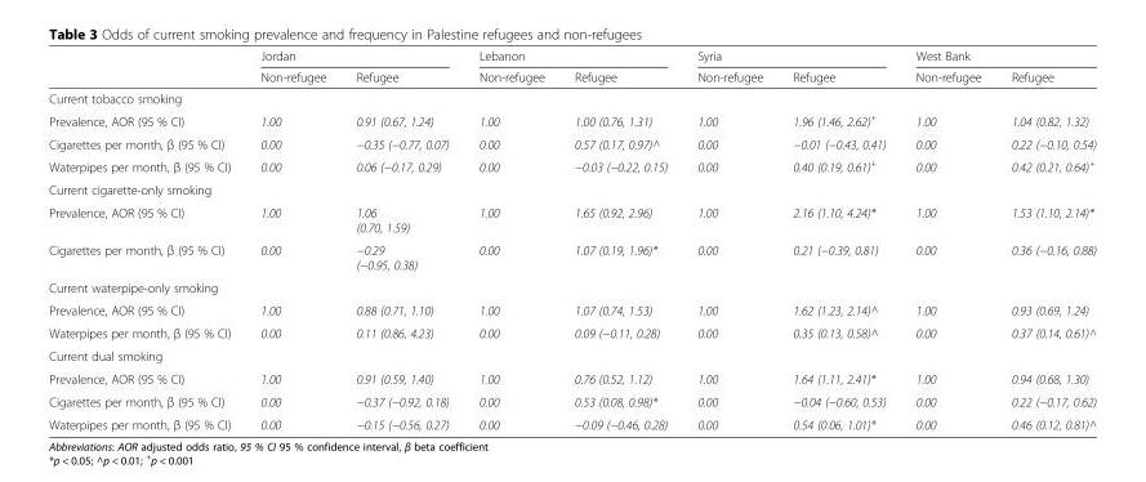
<table><thead><tr><td rowspan="2"></td><td colspan="2">Jordan</td><td colspan="2">Lebanon</td><td colspan="2">Syria</td><td colspan="2">West Bank</td></tr><tr><td>Non-refugee</td><td>Refugee</td><td>Non-refugee</td><td>Refugee</td><td>Non-refugee</td><td>Refugee</td><td>Non-refugee</td><td>Refugee</td></tr></thead><tbody><tr><td colspan="9">Current tobacco smoking</td></tr><tr><td>Prevalence, AOR (95 % CI)</td><td>1.00</td><td>0.91 (0.67, 1.24)</td><td>1.00</td><td>1.00 (0.76, 1.31)</td><td>1.00</td><td>1.96 (1.46, 2.62)<sup>+</sup></td><td>1.00</td><td>1.04 (0.82, 1.32)</td></tr><tr><td>Cigarettes per month, β (95 % CI)</td><td>0.00</td><td>−0.35 (−0.77, 0.07)</td><td>0.00</td><td>0.57 (0.17, 0.97)^</td><td>0.00</td><td>−0.01 (−0.43, 0.41)</td><td>0.00</td><td>0.22 (−0.10, 0.54)</td></tr><tr><td>Waterpipes per month, β (95 % CI)</td><td>0.00</td><td>0.06 (−0.17, 0.29)</td><td>0.00</td><td>−0.03 (−0.22, 0.15)</td><td>0.00</td><td>0.40 (0.19, 0.61)<sup>+</sup></td><td>0.00</td><td>0.42 (0.21, 0.64)<sup>+</sup></td></tr><tr><td colspan="9">Current cigarette-only smoking</td></tr><tr><td>Prevalence, AOR (95 % CI)</td><td>1.00</td><td>1.06 (0.70, 1.59)</td><td>1.00</td><td>1.65 (0.92, 2.96)</td><td>1.00</td><td>2.16 (1.10, 4.24)*</td><td>1.00</td><td>1.53 (1.10, 2.14)*</td></tr><tr><td>Cigarettes per month, β (95 % CI)</td><td>0.00</td><td>−0.29 (−0.95, 0.38)</td><td>0.00</td><td>1.07 (0.19, 1.96)*</td><td>0.00</td><td>0.21 (−0.39, 0.81)</td><td>0.00</td><td>0.36 (−0.16, 0.88)</td></tr><tr><td colspan="9">Current waterpipe-only smoking</td></tr><tr><td>Prevalence, AOR (95 % CI)</td><td>1.00</td><td>0.88 (0.71, 1.10)</td><td>1.00</td><td>1.07 (0.74, 1.53)</td><td>1.00</td><td>1.62 (1.23, 2.14)^</td><td>1.00</td><td>0.93 (0.69, 1.24)</td></tr><tr><td>Waterpipes per month, β (95 % CI)</td><td>0.00</td><td>0.11 (0.86, 4.23)</td><td>0.00</td><td>0.09 (−0.11, 0.28)</td><td>0.00</td><td>0.35 (0.13, 0.58)^</td><td>0.00</td><td>0.37 (0.14, 0.61)^</td></tr><tr><td colspan="9">Current dual smoking</td></tr><tr><td>Prevalence, AOR (95 % CI)</td><td>1.00</td><td>0.91 (0.59, 1.40)</td><td>1.00</td><td>0.76 (0.52, 1.12)</td><td>1.00</td><td>1.64 (1.11, 2.41)*</td><td>1.00</td><td>0.94 (0.68, 1.30)</td></tr><tr><td>Cigarettes per month, β (95 % CI)</td><td>0.00</td><td>−0.37 (−0.92, 0.18)</td><td>0.00</td><td>0.53 (0.08, 0.98)*</td><td>0.00</td><td>−0.04 (−0.60, 0.53)</td><td>0.00</td><td>0.22 (−0.17, 0.62)</td></tr><tr><td>Waterpipes per month, β (95 % CI)</td><td>0.00</td><td>−0.15 (−0.56, 0.27)</td><td>0.00</td><td>−0.09 (−0.46, 0.28)</td><td>0.00</td><td>0.54 (0.06, 1.01)*</td><td>0.00</td><td>0.46 (0.12, 0.81)^</td></tr></tbody></table>